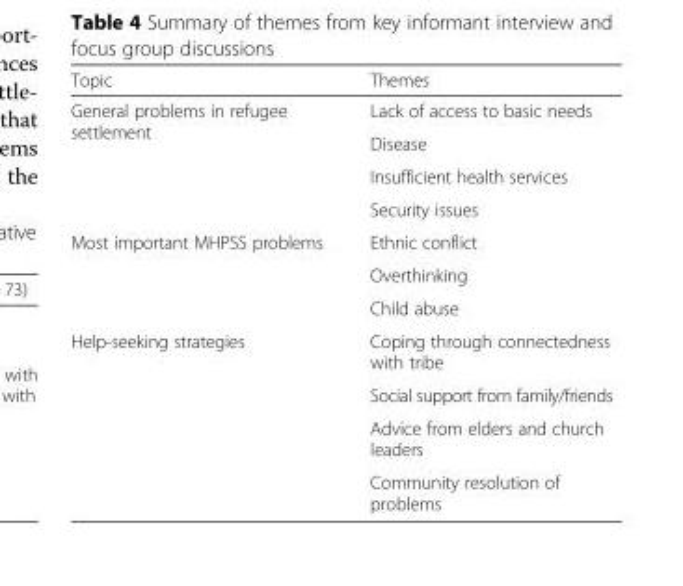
<table><thead><tr><td>Topic</td><td>Themes</td></tr></thead><tbody><tr><td rowspan="4">General problems in refugee settlement</td><td>Lack of access to basic needs</td></tr><tr><td>Disease</td></tr><tr><td>Insufficient health services</td></tr><tr><td>Security issues</td></tr><tr><td rowspan="3">Most important MHPSS problems</td><td>Ethnic conflict</td></tr><tr><td>Overthinking</td></tr><tr><td>Child abuse</td></tr><tr><td rowspan="4">Help-seeking strategies</td><td>Coping through connectedness with tribe</td></tr><tr><td>Social support from family/friends</td></tr><tr><td>Advice from elders and church leaders</td></tr><tr><td>Community resolution of problems</td></tr></tbody></table>